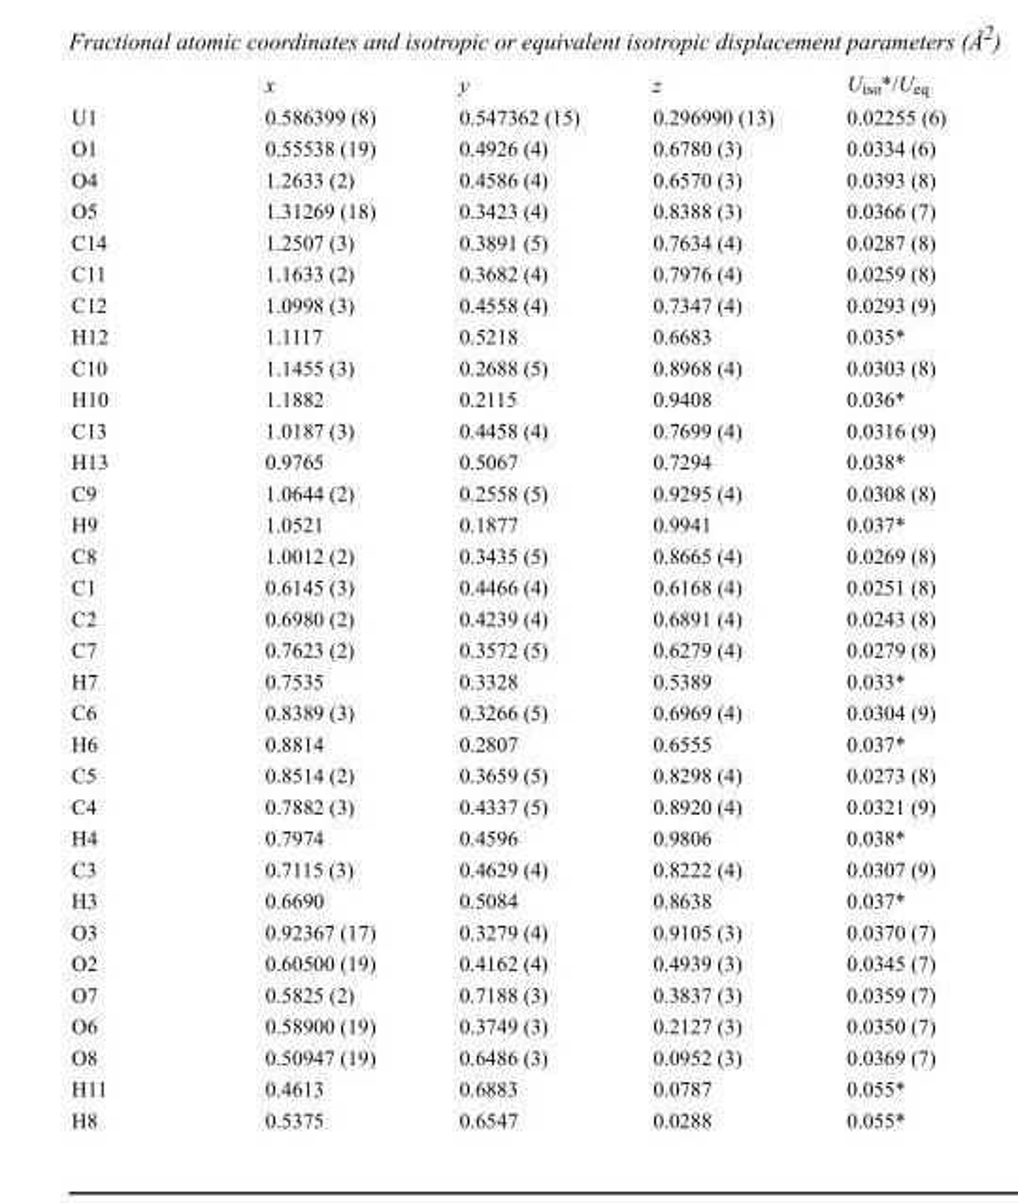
<table><thead><tr><td></td><td>x</td><td>y</td><td>z</td><td>U<sub>iso</sub>*/U<sub>eq</sub></td></tr></thead><tbody><tr><td>U1</td><td>0.586399 (8)</td><td>0.547362 (15)</td><td>0.296990 (13)</td><td>0.02255 (6)</td></tr><tr><td>O1</td><td>0.55538 (19)</td><td>0.4926 (4)</td><td>0.6780 (3)</td><td>0.0334 (6)</td></tr><tr><td>O4</td><td>1.2633 (2)</td><td>0.4586 (4)</td><td>0.6570 (3)</td><td>0.0393 (8)</td></tr><tr><td>O5</td><td>1.31269 (18)</td><td>0.3423 (4)</td><td>0.8388 (3)</td><td>0.0366 (7)</td></tr><tr><td>C14</td><td>1.2507 (3)</td><td>0.3891 (5)</td><td>0.7634 (4)</td><td>0.0287 (8)</td></tr><tr><td>C11</td><td>1.1633 (2)</td><td>0.3682 (4)</td><td>0.7976 (4)</td><td>0.0259 (8)</td></tr><tr><td>C12</td><td>1.0998 (3)</td><td>0.4558 (4)</td><td>0.7347 (4)</td><td>0.0293 (9)</td></tr><tr><td>H12</td><td>1.1117</td><td>0.5218</td><td>0.6683</td><td>0.035*</td></tr><tr><td>C10</td><td>1.1455 (3)</td><td>0.2688 (5)</td><td>0.8968 (4)</td><td>0.0303 (8)</td></tr><tr><td>H10</td><td>1.1882</td><td>0.2115</td><td>0.9408</td><td>0.036*</td></tr><tr><td>C13</td><td>1.0187 (3)</td><td>0.4458 (4)</td><td>0.7699 (4)</td><td>0.0316 (9)</td></tr><tr><td>H13</td><td>0.9765</td><td>0.5067</td><td>0.7294</td><td>0.038*</td></tr><tr><td>C9</td><td>1.0644 (2)</td><td>0.2558 (5)</td><td>0.9295 (4)</td><td>0.0308 (8)</td></tr><tr><td>H9</td><td>1.0521</td><td>0.1877</td><td>0.9941</td><td>0.037*</td></tr><tr><td>C8</td><td>1.0012 (2)</td><td>0.3435 (5)</td><td>0.8665 (4)</td><td>0.0269 (8)</td></tr><tr><td>C1</td><td>0.6145 (3)</td><td>0.4466 (4)</td><td>0.6168 (4)</td><td>0.0251 (8)</td></tr><tr><td>C2</td><td>0.6980 (2)</td><td>0.4239 (4)</td><td>0.6891 (4)</td><td>0.0243 (8)</td></tr><tr><td>C7</td><td>0.7623 (2)</td><td>0.3572 (5)</td><td>0.6279 (4)</td><td>0.0279 (8)</td></tr><tr><td>H7</td><td>0.7535</td><td>0.3328</td><td>0.5389</td><td>0.033*</td></tr><tr><td>C6</td><td>0.8389 (3)</td><td>0.3266 (5)</td><td>0.6969 (4)</td><td>0.0304 (9)</td></tr><tr><td>H6</td><td>0.8814</td><td>0.2807</td><td>0.6555</td><td>0.037*</td></tr><tr><td>C5</td><td>0.8514 (2)</td><td>0.3659 (5)</td><td>0.8298 (4)</td><td>0.0273 (8)</td></tr><tr><td>C4</td><td>0.7882 (3)</td><td>0.4337 (5)</td><td>0.8920 (4)</td><td>0.0321 (9)</td></tr><tr><td>H4</td><td>0.7974</td><td>0.4596</td><td>0.9806</td><td>0.038*</td></tr><tr><td>C3</td><td>0.7115 (3)</td><td>0.4629 (4)</td><td>0.8222 (4)</td><td>0.0307 (9)</td></tr><tr><td>H3</td><td>0.6690</td><td>0.5084</td><td>0.8638</td><td>0.037*</td></tr><tr><td>O3</td><td>0.92367 (17)</td><td>0.3279 (4)</td><td>0.9105 (3)</td><td>0.0370 (7)</td></tr><tr><td>O2</td><td>0.60500 (19)</td><td>0.4162 (4)</td><td>0.4939 (3)</td><td>0.0345 (7)</td></tr><tr><td>O7</td><td>0.5825 (2)</td><td>0.7188 (3)</td><td>0.3837 (3)</td><td>0.0359 (7)</td></tr><tr><td>O6</td><td>0.58900 (19)</td><td>0.3749 (3)</td><td>0.2127 (3)</td><td>0.0350 (7)</td></tr><tr><td>O8</td><td>0.50947 (19)</td><td>0.6486 (3)</td><td>0.0952 (3)</td><td>0.0369 (7)</td></tr><tr><td>H11</td><td>0.4613</td><td>0.6883</td><td>0.0787</td><td>0.055*</td></tr><tr><td>H8</td><td>0.5375</td><td>0.6547</td><td>0.0288</td><td>0.055*</td></tr></tbody></table>